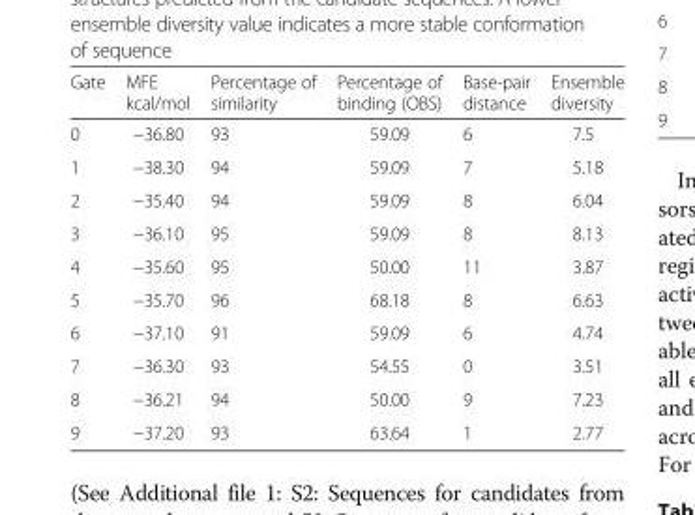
<table><thead><tr><td>Gate</td><td>MFE kcal/mol</td><td>Percentage of similarity</td><td>Percentage of binding (OBS)</td><td>Base-pair distance</td><td>Ensemble diversity</td></tr></thead><tbody><tr><td>0</td><td>−36.80</td><td>93</td><td>59.09</td><td>6</td><td>7.5</td></tr><tr><td>1</td><td>−38.30</td><td>94</td><td>59.09</td><td>7</td><td>5.18</td></tr><tr><td>2</td><td>−35.40</td><td>94</td><td>59.09</td><td>8</td><td>6.04</td></tr><tr><td>3</td><td>−36.10</td><td>95</td><td>59.09</td><td>8</td><td>8.13</td></tr><tr><td>4</td><td>−35.60</td><td>95</td><td>50.00</td><td>11</td><td>3.87</td></tr><tr><td>5</td><td>−35.70</td><td>96</td><td>68.18</td><td>8</td><td>6.63</td></tr><tr><td>6</td><td>−37.10</td><td>91</td><td>59.09</td><td>6</td><td>4.74</td></tr><tr><td>7</td><td>−36.30</td><td>93</td><td>54.55</td><td>0</td><td>3.51</td></tr><tr><td>8</td><td>−36.21</td><td>94</td><td>50.00</td><td>9</td><td>7.23</td></tr><tr><td>9</td><td>−37.20</td><td>93</td><td>63.64</td><td>1</td><td>2.77</td></tr></tbody></table>